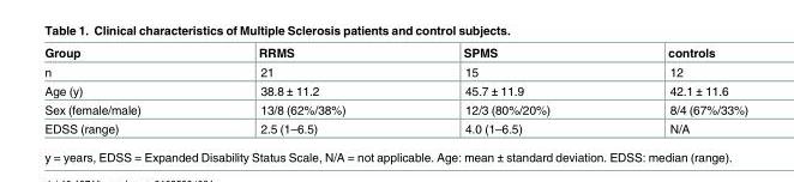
<table><thead><tr><td>Group</td><td>RRMS</td><td>SPMS</td><td>controls</td></tr></thead><tbody><tr><td>n</td><td>21</td><td>15</td><td>12</td></tr><tr><td>Age (y)</td><td>38.8 ± 11.2</td><td>45.7 ± 11.9</td><td>42.1 ± 11.6</td></tr><tr><td>Sex (female/male)</td><td>13/8 (62%/38%)</td><td>12/3 (80%/20%)</td><td>8/4 (67%/33%)</td></tr><tr><td>EDSS (range)</td><td>2.5 (1–6.5)</td><td>4.0 (1–6.5)</td><td>N/A</td></tr></tbody></table>